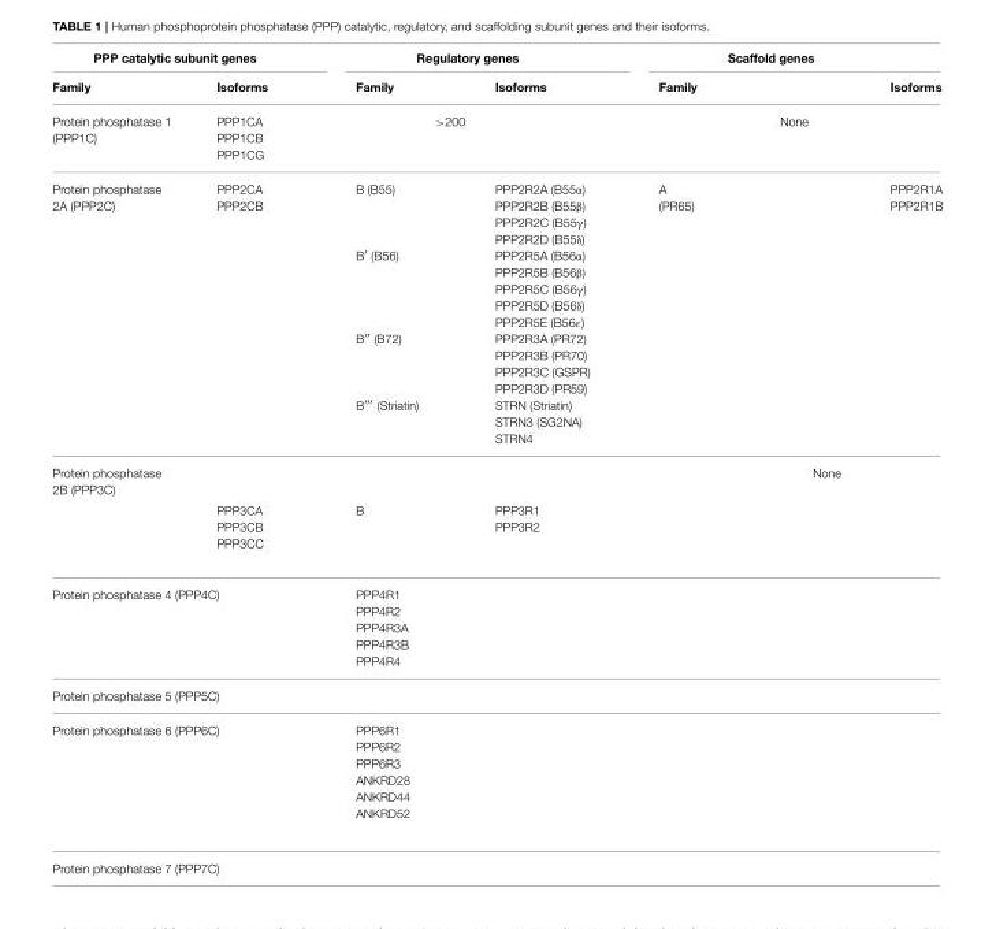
<table><thead><tr><td colspan="2">PPP catalytic subunit genes</td><td colspan="2">Regulatory genes</td><td colspan="2">Scaffold genes</td></tr><tr><td>Family</td><td>Isoforms</td><td>Family</td><td>Isoforms</td><td>Family</td><td>Isoforms</td></tr></thead><tbody><tr><td>Protein phosphatase 1 (PPP1C)</td><td>PPP1CA PPP1CB PPP1CG</td><td colspan="2">&gt;200</td><td colspan="2">None</td></tr><tr><td>Protein phosphatase 2A (PPP2C)</td><td>PPP2CA PPP2CB</td><td>B (B55) B′ (B56) B′′ (B72) B<sup>′′′</sup> (Striatin)</td><td>PPP2R2A (B55α) PPP2R2B (B55β) PPP2R2C (B55γ) PPP2R2D (B55δ) PPP2R5A (B56α) PPP2R5B (B56β) PPP2R5C (B56γ) PPP2R5D (B56δ) PPP2R5E (B56ε) PPP2R3A (PR72) PPP2R3B (PR70) PPP2R3C (GSPR) PPP2R3D (PR59) STRN (Striatin) STRN3 (SG2NA) STRN4</td><td>A (PR65)</td><td>PPP2R1A PPP2R1B</td></tr><tr><td rowspan="2">Protein phosphatase 2B (PPP3C)</td><td></td><td></td><td colspan="3">None</td></tr><tr><td>PPP3CA PPP3CB PPP3CC</td><td>B</td><td>PPP3R1 PPP3R2</td><td colspan="2"></td></tr><tr><td colspan="2">Protein phosphatase 4 (PPP4C)</td><td>PPP4R1 PPP4R2 PPP4R3A PPP4R3B PPP4R4</td><td></td><td colspan="2"></td></tr><tr><td colspan="6">Protein phosphatase 5 (PPP5C)</td></tr><tr><td colspan="2">Protein phosphatase 6 (PPP6C)</td><td>PPP6R1 PPP6R2 PPP6R3 ANKRD28 ANKRD44 ANKRD52</td><td></td><td colspan="2"></td></tr><tr><td colspan="2">Protein phosphatase 7 (PPP7C)</td><td colspan="2"></td><td colspan="2"></td></tr></tbody></table>